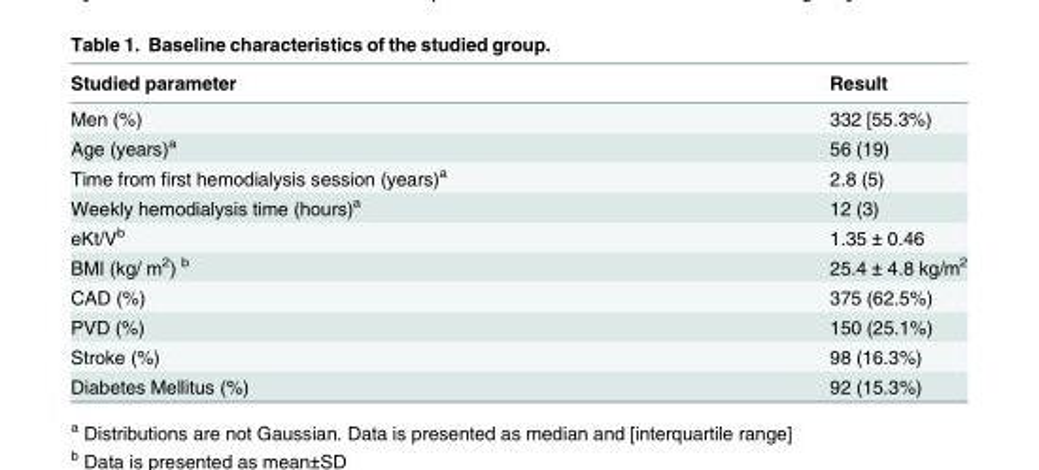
<table><thead><tr><td>Studied parameter</td><td>Result</td></tr></thead><tbody><tr><td>Men (%)</td><td>332 [55.3%)</td></tr><tr><td>Age (years)<sup>a</sup></td><td>56 (19)</td></tr><tr><td>Time from first hemodialysis session (years)<sup>a</sup></td><td>2.8 (5)</td></tr><tr><td>Weekly hemodialysis time (hours)<sup>a</sup></td><td>12 (3)</td></tr><tr><td>eKt/V<sup>b</sup></td><td>1.35 ± 0.46</td></tr><tr><td>BMI (kg/ m<sup>2</sup>) <sup>b</sup></td><td>25.4 ± 4.8 kg/m<sup>2</sup></td></tr><tr><td>CAD (%)</td><td>375 (62.5%)</td></tr><tr><td>PVD (%)</td><td>150 (25.1%)</td></tr><tr><td>Stroke (%)</td><td>98 (16.3%)</td></tr><tr><td>Diabetes Mellitus (%)</td><td>92 (15.3%)</td></tr></tbody></table>